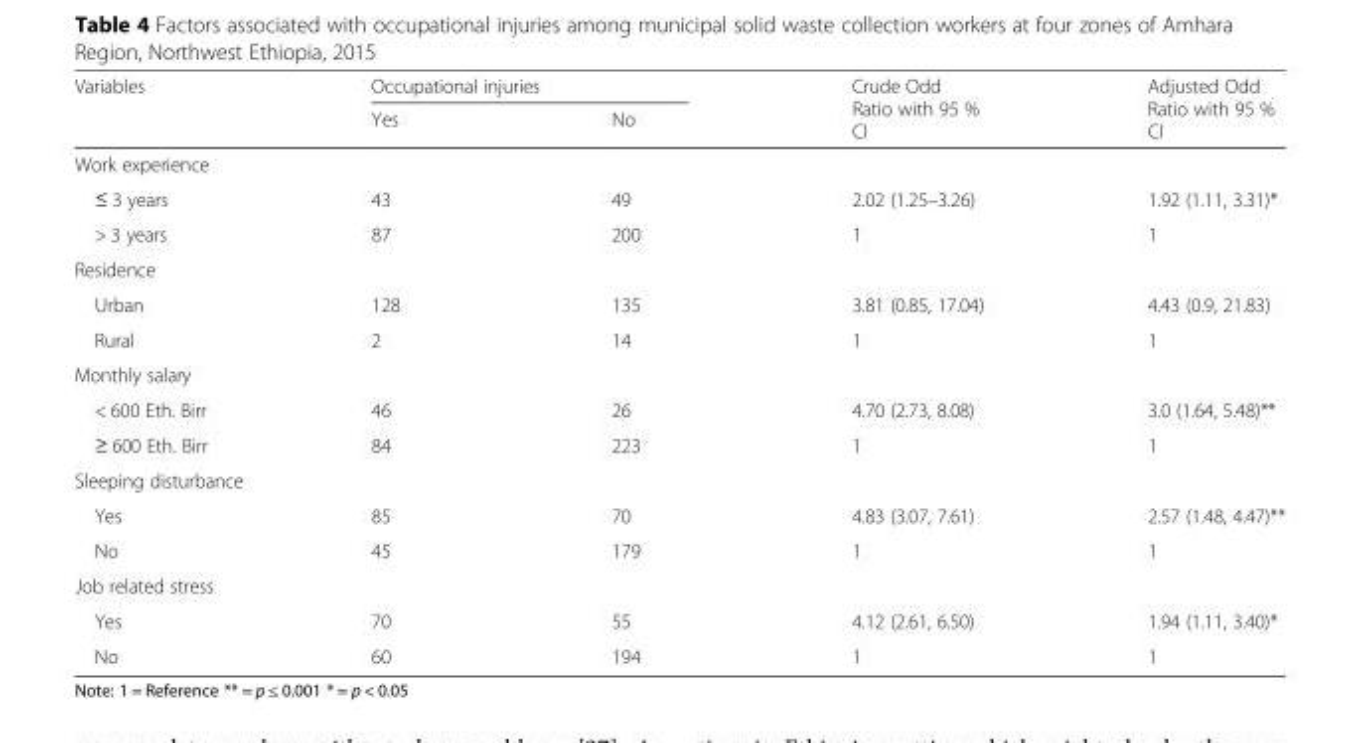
<table><thead><tr><td rowspan="2">Variables</td><td colspan="2">Occupational injuries</td><td rowspan="2">Crude Odd Ratio with 95 % CI</td><td rowspan="2">Adjusted Odd Ratio with 95 % CI</td></tr><tr><td>Yes</td><td>No</td></tr></thead><tbody><tr><td colspan="5">Work experience</td></tr><tr><td>≤ 3 years</td><td>43</td><td>49</td><td>2.02 (1.25–3.26)</td><td>1.92 (1.11, 3.31)*</td></tr><tr><td>&gt; 3 years</td><td>87</td><td>200</td><td>1</td><td>1</td></tr><tr><td colspan="5">Residence</td></tr><tr><td>Urban</td><td>128</td><td>135</td><td>3.81 (0.85, 17.04)</td><td>4.43 (0.9, 21.83)</td></tr><tr><td>Rural</td><td>2</td><td>14</td><td>1</td><td>1</td></tr><tr><td colspan="5">Monthly salary</td></tr><tr><td>&lt; 600 Eth. Birr</td><td>46</td><td>26</td><td>4.70 (2.73, 8.08)</td><td>3.0 (1.64, 5.48)**</td></tr><tr><td>≥ 600 Eth. Birr</td><td>84</td><td>223</td><td>1</td><td>1</td></tr><tr><td colspan="5">Sleeping disturbance</td></tr><tr><td>Yes</td><td>85</td><td>70</td><td>4.83 (3.07, 7.61)</td><td>2.57 (1.48, 4.47)**</td></tr><tr><td>No</td><td>45</td><td>179</td><td>1</td><td>1</td></tr><tr><td colspan="5">Job related stress</td></tr><tr><td>Yes</td><td>70</td><td>55</td><td>4.12 (2.61, 6.50)</td><td>1.94 (1.11, 3.40)*</td></tr><tr><td>No</td><td>60</td><td>194</td><td>1</td><td>1</td></tr></tbody></table>